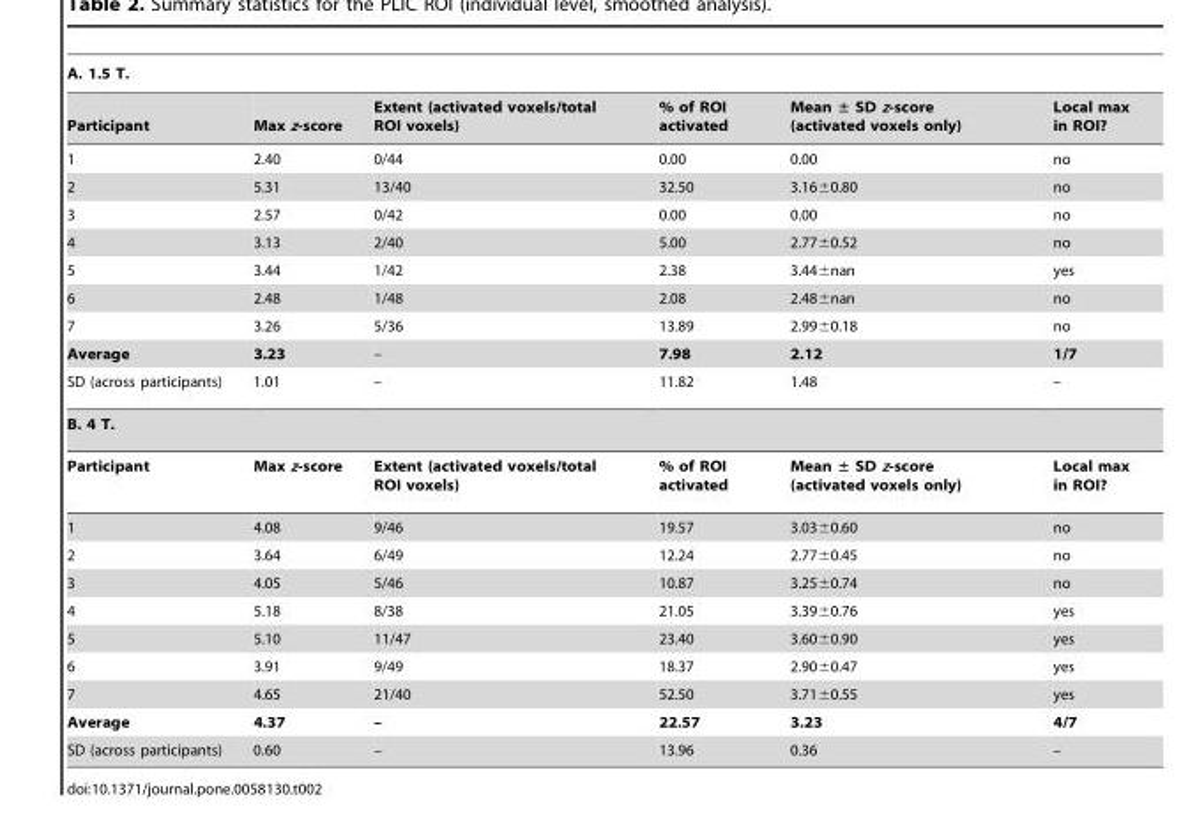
<table><thead><tr><td colspan="6">A. 1.5 T.</td></tr><tr><td>Participant</td><td>Max z-score</td><td>Extent (activated voxels/total ROI voxels)</td><td>% of ROI activated</td><td>Mean ± SD z-score (activated voxels only)</td><td>Local max in ROI?</td></tr></thead><tbody><tr><td>1</td><td>2.40</td><td>0/44</td><td>0.00</td><td>0.00</td><td>no</td></tr><tr><td>2</td><td>5.31</td><td>13/40</td><td>32.50</td><td>3.16±0.80</td><td>no</td></tr><tr><td>3</td><td>2.57</td><td>0/42</td><td>0.00</td><td>0.00</td><td>no</td></tr><tr><td>4</td><td>3.13</td><td>2/40</td><td>5.00</td><td>2.77±0.52</td><td>no</td></tr><tr><td>5</td><td>3.44</td><td>1/42</td><td>2.38</td><td>3.44±nan</td><td>yes</td></tr><tr><td>6</td><td>2.48</td><td>1/48</td><td>2.08</td><td>2.48±nan</td><td>no</td></tr><tr><td>7</td><td>3.26</td><td>5/36</td><td>13.89</td><td>2.99±0.18</td><td>no</td></tr><tr><td>Average</td><td>3.23</td><td>–</td><td>7.98</td><td>2.12</td><td>1/7</td></tr><tr><td>SD (across participants)</td><td>1.01</td><td>–</td><td>11.82</td><td>1.48</td><td>–</td></tr><tr><td colspan="6">B. 4 T.</td></tr><tr><td>Participant</td><td>Max z-score</td><td>Extent (activated voxels/total ROI voxels)</td><td>% of ROI activated</td><td>Mean ± SD z-score (activated voxels only)</td><td>Local max in ROI?</td></tr><tr><td>1</td><td>4.08</td><td>9/46</td><td>19.57</td><td>3.03±0.60</td><td>no</td></tr><tr><td>2</td><td>3.64</td><td>6/49</td><td>12.24</td><td>2.77±0.45</td><td>no</td></tr><tr><td>3</td><td>4.05</td><td>5/46</td><td>10.87</td><td>3.25±0.74</td><td>no</td></tr><tr><td>4</td><td>5.18</td><td>8/38</td><td>21.05</td><td>3.39±0.76</td><td>yes</td></tr><tr><td>5</td><td>5.10</td><td>11/47</td><td>23.40</td><td>3.60±0.90</td><td>yes</td></tr><tr><td>6</td><td>3.91</td><td>9/49</td><td>18.37</td><td>2.90±0.47</td><td>yes</td></tr><tr><td>7</td><td>4.65</td><td>21/40</td><td>52.50</td><td>3.71±0.55</td><td>yes</td></tr><tr><td>Average</td><td>4.37</td><td>–</td><td>22.57</td><td>3.23</td><td>4/7</td></tr><tr><td>SD (across participants)</td><td>0.60</td><td>–</td><td>13.96</td><td>0.36</td><td>–</td></tr></tbody></table>